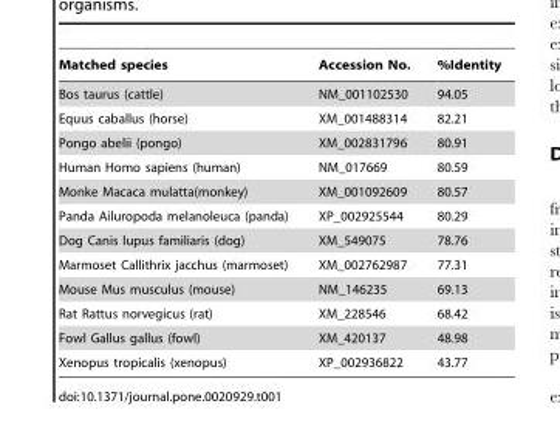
<table><thead><tr><td>Matched species</td><td>Accession No.</td><td>%Identity</td></tr></thead><tbody><tr><td>Bos taurus (cattle)</td><td>NM_001102530</td><td>94.05</td></tr><tr><td>Equus caballus (horse)</td><td>XM_001488314</td><td>82.21</td></tr><tr><td>Pongo abelii (pongo)</td><td>XM_002831796</td><td>80.91</td></tr><tr><td>Human Homo sapiens (human)</td><td>NM_017669</td><td>80.59</td></tr><tr><td>Monke Macaca mulatta(monkey)</td><td>XM_001092609</td><td>80.57</td></tr><tr><td>Panda Ailuropoda melanoleuca (panda)</td><td>XP_002925544</td><td>80.29</td></tr><tr><td>Dog Canis lupus familiaris (dog)</td><td>XM_549075</td><td>78.76</td></tr><tr><td>Marmoset Callithrix jacchus (marmoset)</td><td>XM_002762987</td><td>77.31</td></tr><tr><td>Mouse Mus musculus (mouse)</td><td>NM_146235</td><td>69.13</td></tr><tr><td>Rat Rattus norvegicus (rat)</td><td>XM_228546</td><td>68.42</td></tr><tr><td>Fowl Gallus gallus (fowl)</td><td>XM_420137</td><td>48.98</td></tr><tr><td>Xenopus tropicalis (xenopus)</td><td>XP_002936822</td><td>43.77</td></tr></tbody></table>